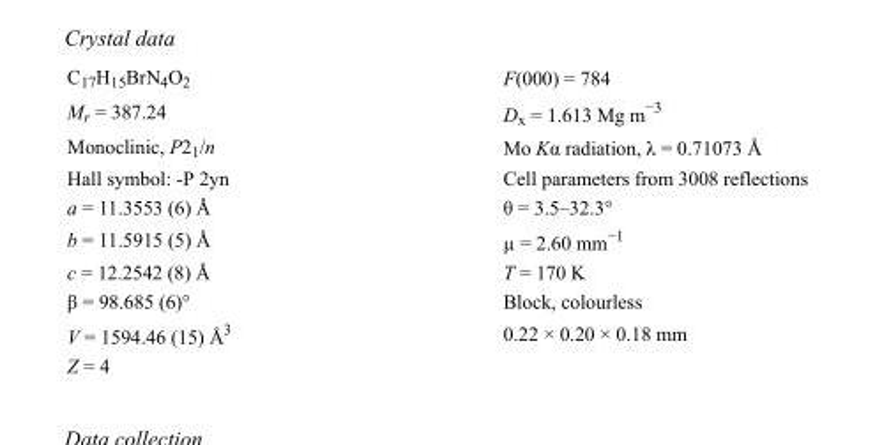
<table><tbody><tr><td>C<sub>17</sub>H<sub>15</sub>BrN<sub>4</sub>O<sub>2</sub></td><td>F(000) = 784</td></tr><tr><td>M<sub>r</sub> = 387.24</td><td>D<sub>x</sub> = 1.613 Mg m<sup>−3</sup></td></tr><tr><td>Monoclinic, P2<sub>1</sub>/n</td><td>Mo Kα radiation, λ = 0.71073 Å</td></tr><tr><td>Hall symbol: -P 2yn</td><td>Cell parameters from 3008 reflections</td></tr><tr><td>a = 11.3553 (6) Å</td><td>θ = 3.5–32.3°</td></tr><tr><td>b = 11.5915 (5) Å</td><td>µ = 2.60 mm<sup>−1</sup></td></tr><tr><td>c = 12.2542 (8) Å</td><td>T = 170 K</td></tr><tr><td>β = 98.685 (6)°</td><td>Block, colourless</td></tr><tr><td>V = 1594.46 (15) Å<sup>3</sup></td><td>0.22 × 0.20 × 0.18 mm</td></tr><tr><td>Z = 4</td><td></td></tr></tbody></table>